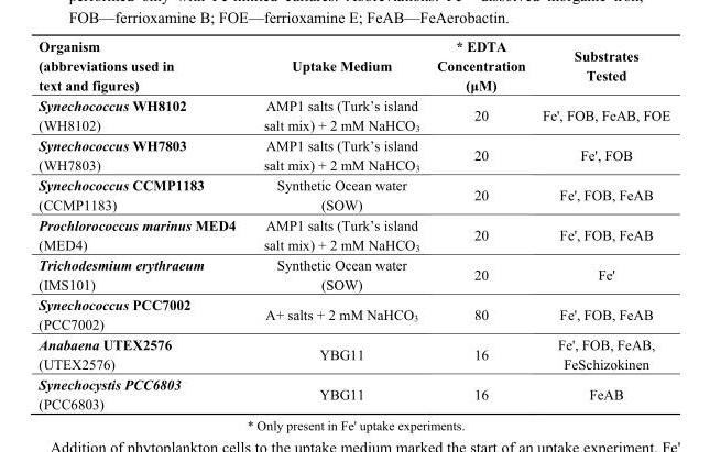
<table><thead><tr><td>Organism (abbreviations used in text and figures)</td><td>Uptake Medium</td><td>* EDTA Concentration (μM)</td><td>Substrates Tested</td></tr></thead><tbody><tr><td>Synechococcus WH8102 (WH8102)</td><td>AMP1 salts (Turk’s island salt mix) + 2 mM NaHCO<sub>3</sub></td><td>20</td><td>Fe&#x27;, FOB, FeAB, FOE</td></tr><tr><td>Synechococcus WH7803 (WH7803)</td><td>AMP1 salts (Turk’s island salt mix) + 2 mM NaHCO<sub>3</sub></td><td>20</td><td>Fe&#x27;, FOB</td></tr><tr><td>Synechococcus CCMP1183 (CCMP1183)</td><td>Synthetic Ocean water (SOW)</td><td>20</td><td>Fe&#x27;, FOB, FeAB</td></tr><tr><td>Prochlorococcus marinus MED4 (MED4)</td><td>AMP1 salts (Turk’s island salt mix) + 2 mM NaHCO<sub>3</sub></td><td>20</td><td>Fe&#x27;, FOB, FeAB</td></tr><tr><td>Trichodesmium erythraeum (IMS101)</td><td>Synthetic Ocean water (SOW)</td><td>20</td><td>Fe&#x27;</td></tr><tr><td>Synechococcus PCC7002 (PCC7002)</td><td>A+ salts + 2 mM NaHCO<sub>3</sub></td><td>80</td><td>Fe&#x27;, FOB, FeAB</td></tr><tr><td>Anabaena UTEX2576 (UTEX2576)</td><td>YBG11</td><td>16</td><td>Fe&#x27;, FOB, FeAB, FeSchizokinen</td></tr><tr><td>Synechocystis PCC6803 (PCC6803)</td><td>YBG11</td><td>16</td><td>FeAB</td></tr></tbody></table>